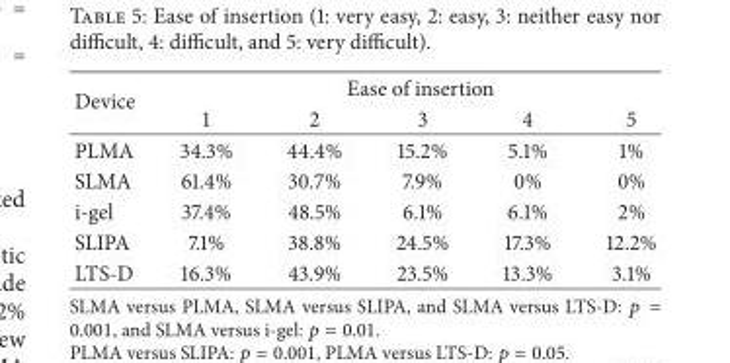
<table><thead><tr><td rowspan="2">Device</td><td colspan="5">Ease of insertion</td></tr><tr><td>1</td><td>2</td><td>3</td><td>4</td><td>5</td></tr></thead><tbody><tr><td>PLMA</td><td>34.3%</td><td>44.4%</td><td>15.2%</td><td>5.1%</td><td>1%</td></tr><tr><td>SLMA</td><td>61.4%</td><td>30.7%</td><td>7.9%</td><td>0%</td><td>0%</td></tr><tr><td>i-gel</td><td>37.4%</td><td>48.5%</td><td>6.1%</td><td>6.1%</td><td>2%</td></tr><tr><td>SLIPA</td><td>7.1%</td><td>38.8%</td><td>24.5%</td><td>17.3%</td><td>12.2%</td></tr><tr><td>LTS-D</td><td>16.3%</td><td>43.9%</td><td>23.5%</td><td>13.3%</td><td>3.1%</td></tr></tbody></table>